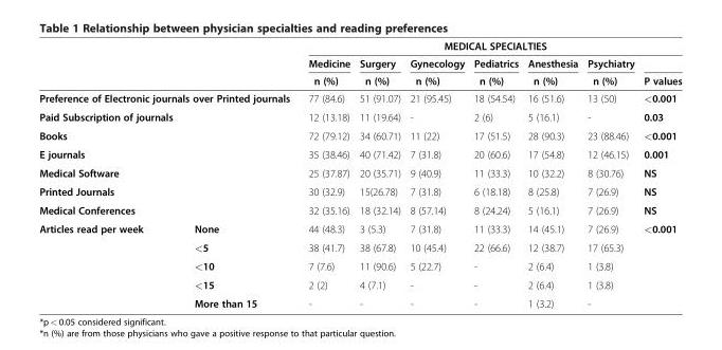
<table><thead><tr><td rowspan="3"></td><td rowspan="3"></td><td colspan="7">MEDICAL SPECIALTIES</td></tr><tr><td rowspan="2">Medicine n (%)</td><td rowspan="2">Surgery n (%)</td><td rowspan="2">Gynecology n (%)</td><td rowspan="2">Pediatrics n (%)</td><td rowspan="2">Anesthesia n (%)</td><td rowspan="2">Psychiatry n (%)</td><td rowspan="2">P values</td></tr><tr></tr></thead><tbody><tr><td colspan="2">Preference of Electronic journals over Printed journals</td><td>77 (84.6)</td><td>51 (91.07)</td><td>21 (95.45)</td><td>18 (54.54)</td><td>16 (51.6)</td><td>13 (50)</td><td>&lt;0.001</td></tr><tr><td colspan="2">Paid Subscription of journals</td><td>12 (13.18)</td><td>11 (19.64)</td><td>-</td><td>2 (6)</td><td>5 (16.1)</td><td>-</td><td>0.03</td></tr><tr><td colspan="2">Books</td><td>72 (79.12)</td><td>34 (60.71)</td><td>11 (22)</td><td>17 (51.5)</td><td>28 (90.3)</td><td>23 (88.46)</td><td>&lt;0.001</td></tr><tr><td colspan="2">E journals</td><td>35 (38.46)</td><td>40 (71.42)</td><td>7 (31.8)</td><td>20 (60.6)</td><td>17 (54.8)</td><td>12 (46.15)</td><td>0.001</td></tr><tr><td colspan="2">Medical Software</td><td>25 (37.87)</td><td>20 (35.71)</td><td>9 (40.9)</td><td>11 (33.3)</td><td>10 (32.2)</td><td>8 (30.76)</td><td>NS</td></tr><tr><td colspan="2">Printed Journals</td><td>30 (32.9)</td><td>15(26.78)</td><td>7 (31.8)</td><td>6 (18.18)</td><td>8 (25.8)</td><td>7 (26.9)</td><td>NS</td></tr><tr><td colspan="2">Medical Conferences</td><td>32 (35.16)</td><td>18 (32.14)</td><td>8 (57.14)</td><td>8 (24.24)</td><td>5 (16.1)</td><td>7 (26.9)</td><td>NS</td></tr><tr><td rowspan="5">Articles read per week</td><td>None</td><td>44 (48.3)</td><td>3 (5.3)</td><td>7 (31.8)</td><td>11 (33.3)</td><td>14 (45.1)</td><td>7 (26.9)</td><td>&lt;0.001</td></tr><tr><td>&lt;5</td><td>38 (41.7)</td><td>38 (67.8)</td><td>10 (45.4)</td><td>22 (66.6)</td><td>12 (38.7)</td><td>17 (65.3)</td><td></td></tr><tr><td>&lt;10</td><td>7 (7.6)</td><td>11 (90.6)</td><td>5 (22.7)</td><td>-</td><td>2 (6.4)</td><td>1 (3.8)</td><td></td></tr><tr><td>&lt;15</td><td>2 (2)</td><td>4 (7.1)</td><td>-</td><td>-</td><td>2 (6.4)</td><td>1 (3.8)</td><td></td></tr><tr><td>More than 15</td><td>-</td><td>-</td><td>-</td><td>-</td><td>1 (3.2)</td><td>-</td><td></td></tr></tbody></table>